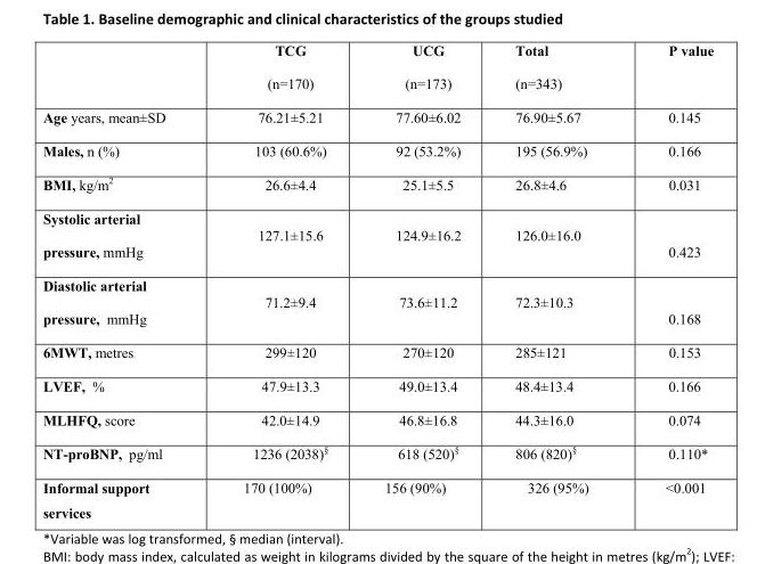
<table><thead><tr><td></td><td>TCG (n=170)</td><td>UCG (n=173)</td><td>Total (n=343)</td><td>P value</td></tr></thead><tbody><tr><td>Age years, mean±SD</td><td>76.21±5.21</td><td>77.60±6.02</td><td>76.90±5.67</td><td>0.145</td></tr><tr><td>Males, n (%)</td><td>103 (60.6%)</td><td>92 (53.2%)</td><td>195 (56.9%)</td><td>0.166</td></tr><tr><td>BMI, kg/m<sup>2</sup></td><td>26.6±4.4</td><td>25.1±5.5</td><td>26.8±4.6</td><td>0.031</td></tr><tr><td>Systolic arterial pressure, mmHg</td><td>127.1±15.6</td><td>124.9±16.2</td><td>126.0±16.0</td><td>0.423</td></tr><tr><td>Diastolic arterial pressure, mmHg</td><td>71.2±9.4</td><td>73.6±11.2</td><td>72.3±10.3</td><td>0.168</td></tr><tr><td>6MWT, metres</td><td>299±120</td><td>270±120</td><td>285±121</td><td>0.153</td></tr><tr><td>LVEF, %</td><td>47.9±13.3</td><td>49.0±13.4</td><td>48.4±13.4</td><td>0.166</td></tr><tr><td>MLHFQ, score</td><td>42.0±14.9</td><td>46.8±16.8</td><td>44.3±16.0</td><td>0.074</td></tr><tr><td>NT-proBNP, pg/ml</td><td>1236 (2038)<sup>§</sup></td><td>618 (520)<sup>§</sup></td><td>806 (820)<sup>§</sup></td><td>0.110*</td></tr><tr><td>Informal support services</td><td>170 (100%)</td><td>156 (90%)</td><td>326 (95%)</td><td>&lt;0.001</td></tr></tbody></table>